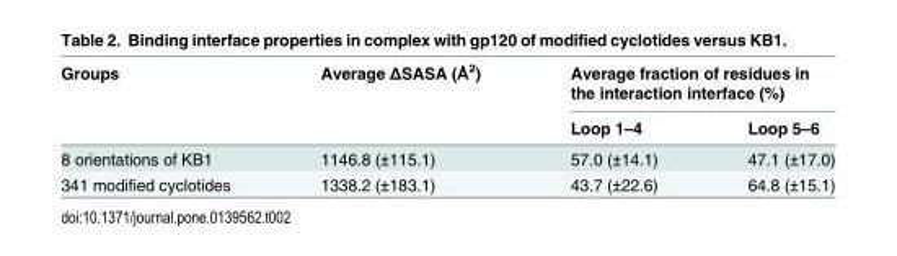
<table><thead><tr><td rowspan="2">Groups</td><td rowspan="2">Average ΔSASA (Å<sup>2</sup>)</td><td colspan="2">Average fraction of residues in the interaction interface (%)</td></tr><tr><td>Loop 1–4</td><td>Loop 5–6</td></tr></thead><tbody><tr><td>8 orientations of KB1</td><td>1146.8 (±115.1)</td><td>57.0 (±14.1)</td><td>47.1 (±17.0)</td></tr><tr><td>341 modified cyclotides</td><td>1338.2 (±183.1)</td><td>43.7 (±22.6)</td><td>64.8 (±15.1)</td></tr></tbody></table>